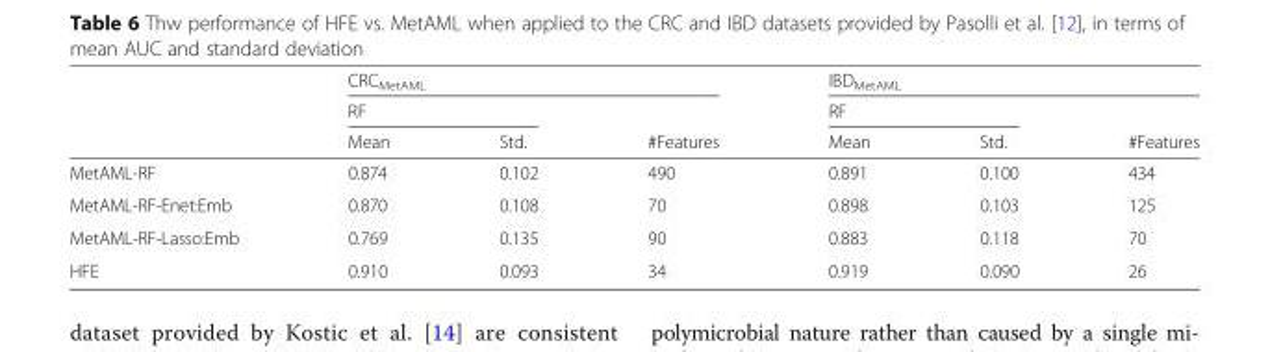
<table><thead><tr><td rowspan="3"></td><td colspan="3">CRC<sub>MetAML</sub></td><td colspan="3">IBD<sub>MetAML</sub></td></tr><tr><td colspan="2">RF</td><td rowspan="2">#Features</td><td colspan="2">RF</td><td rowspan="2">#Features</td></tr><tr><td>Mean</td><td>Std.</td><td>Mean</td><td>Std.</td></tr></thead><tbody><tr><td>MetAML-RF</td><td>0.874</td><td>0.102</td><td>490</td><td>0.891</td><td>0.100</td><td>434</td></tr><tr><td>MetAML-RF-Enet:Emb</td><td>0.870</td><td>0.108</td><td>70</td><td>0.898</td><td>0.103</td><td>125</td></tr><tr><td>MetAML-RF-Lasso:Emb</td><td>0.769</td><td>0.135</td><td>90</td><td>0.883</td><td>0.118</td><td>70</td></tr><tr><td>HFE</td><td>0.910</td><td>0.093</td><td>34</td><td>0.919</td><td>0.090</td><td>26</td></tr></tbody></table>